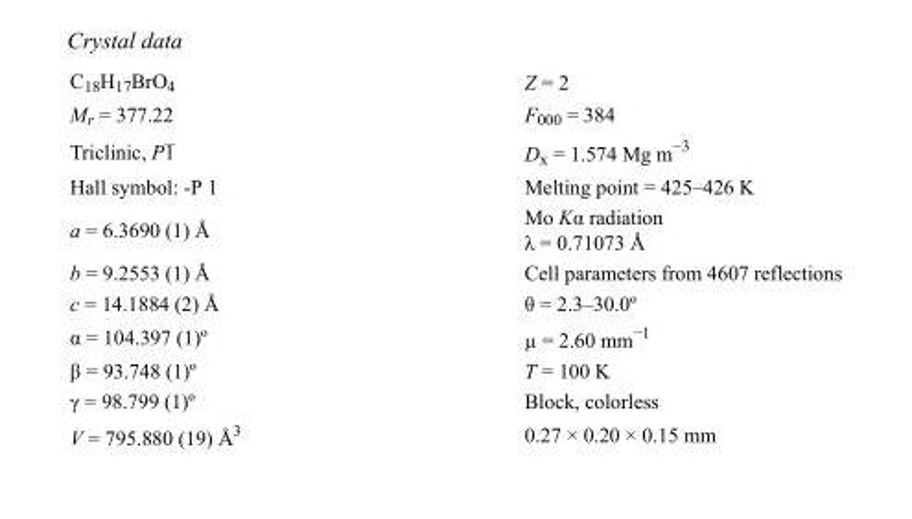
<table><tbody><tr><td>C<sub>18</sub>H<sub>17</sub>BrO<sub>4</sub></td><td>Z = 2</td></tr><tr><td>M<sub>r</sub> = 377.22</td><td>F000 = 384</td></tr><tr><td>Triclinic, P1</td><td>D<sub>x</sub> = 1.574 Mg m<sup>−3</sup></td></tr><tr><td>Hall symbol: -P 1</td><td>Melting point = 425–426 K</td></tr><tr><td>a = 6.3690 (1) Å</td><td>Mo Kα radiation λ = 0.71073 Å</td></tr><tr><td>b = 9.2553 (1) Å</td><td>Cell parameters from 4607 reflections</td></tr><tr><td>c = 14.1884 (2) Å</td><td>θ = 2.3–30.0º</td></tr><tr><td>α = 104.397 (1)º</td><td>µ = 2.60 mm<sup>−1</sup></td></tr><tr><td>β = 93.748 (1)º</td><td>T = 100 K</td></tr><tr><td>γ = 98.799 (1)º</td><td>Block, colorless</td></tr><tr><td>V = 795.880 (19) Å3</td><td>0.27 × 0.20 × 0.15 mm</td></tr></tbody></table>